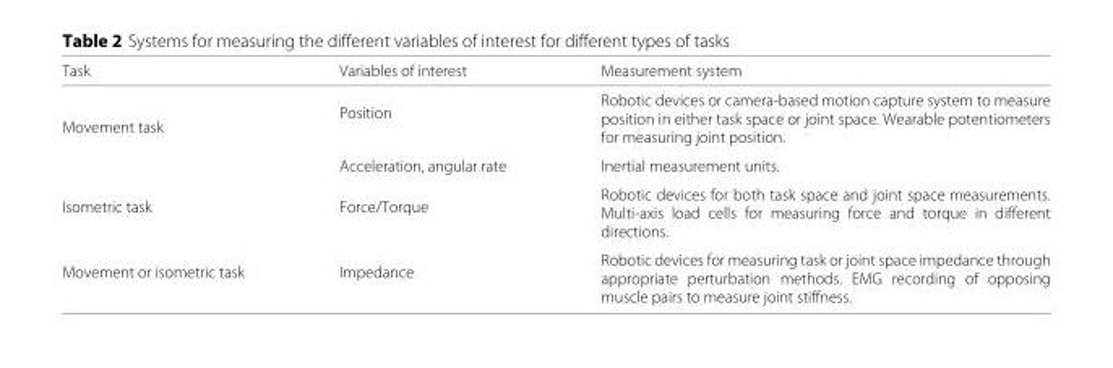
<table><thead><tr><td>Task</td><td>Variables of interest</td><td>Measurement system</td></tr></thead><tbody><tr><td rowspan="2">Movement task</td><td>Position</td><td>Robotic devices or camera-based motion capture system to measure position in either task space or joint space. Wearable potentiometers for measuring joint position.</td></tr><tr><td>Acceleration, angular rate</td><td>Inertial measurement units.</td></tr><tr><td>Isometric task</td><td>Force/Torque</td><td>Robotic devices for both task space and joint space measurements. Multi-axis load cells for measuring force and torque in different directions.</td></tr><tr><td>Movement or isometric task</td><td>Impedance</td><td>Robotic devices for measuring task or joint space impedance through appropriate perturbation methods. EMG recording of opposing muscle pairs to measure joint stiffness.</td></tr></tbody></table>